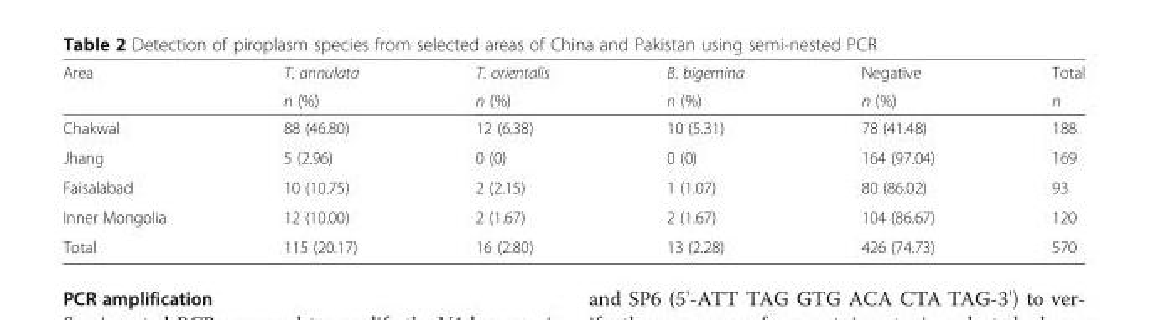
<table><thead><tr><td rowspan="2">Area</td><td rowspan="2">T. annulata n (%)</td><td rowspan="2">T. orientalis n (%)</td><td rowspan="2">B. bigemina n (%)</td><td rowspan="2">Negative n (%)</td><td rowspan="2">Total n</td></tr><tr></tr></thead><tbody><tr><td>Chakwal</td><td>88 (46.80)</td><td>12 (6.38)</td><td>10 (5.31)</td><td>78 (41.48)</td><td>188</td></tr><tr><td>Jhang</td><td>5 (2.96)</td><td>0 (0)</td><td>0 (0)</td><td>164 (97.04)</td><td>169</td></tr><tr><td>Faisalabad</td><td>10 (10.75)</td><td>2 (2.15)</td><td>1 (1.07)</td><td>80 (86.02)</td><td>93</td></tr><tr><td>Inner Mongolia</td><td>12 (10.00)</td><td>2 (1.67)</td><td>2 (1.67)</td><td>104 (86.67)</td><td>120</td></tr><tr><td>Total</td><td>115 (20.17)</td><td>16 (2.80)</td><td>13 (2.28)</td><td>426 (74.73)</td><td>570</td></tr></tbody></table>